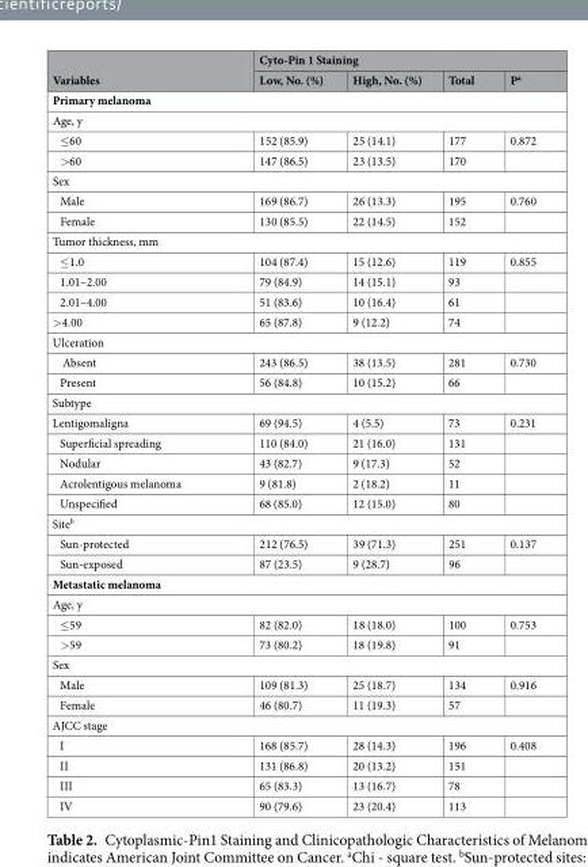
<table><thead><tr><td rowspan="2">Variables</td><td colspan="4">Cyto-Pin 1 Staining</td></tr><tr><td>Low, No. (%)</td><td>High, No. (%)</td><td>Total</td><td>P<sup>a</sup></td></tr></thead><tbody><tr><td colspan="5">Primary melanoma</td></tr><tr><td colspan="5">Age, y</td></tr><tr><td>≤60</td><td>152 (85.9)</td><td>25 (14.1)</td><td>177</td><td>0.872</td></tr><tr><td>&gt;60</td><td>147 (86.5)</td><td>23 (13.5)</td><td>170</td><td></td></tr><tr><td colspan="5">Sex</td></tr><tr><td>Male</td><td>169 (86.7)</td><td>26 (13.3)</td><td>195</td><td>0.760</td></tr><tr><td>Female</td><td>130 (85.5)</td><td>22 (14.5)</td><td>152</td><td></td></tr><tr><td colspan="5">Tumor thickness, mm</td></tr><tr><td>≤1.0</td><td>104 (87.4)</td><td>15 (12.6)</td><td>119</td><td>0.855</td></tr><tr><td>1.01–2.00</td><td>79 (84.9)</td><td>14 (15.1)</td><td>93</td><td></td></tr><tr><td>2.01–4.00</td><td>51 (83.6)</td><td>10 (16.4)</td><td>61</td><td></td></tr><tr><td>&gt;4.00</td><td>65 (87.8)</td><td>9 (12.2)</td><td>74</td><td></td></tr><tr><td colspan="5">Ulceration</td></tr><tr><td>Absent</td><td>243 (86.5)</td><td>38 (13.5)</td><td>281</td><td>0.730</td></tr><tr><td>Present</td><td>56 (84.8)</td><td>10 (15.2)</td><td>66</td><td></td></tr><tr><td colspan="5">Subtype</td></tr><tr><td>Lentigomaligna</td><td>69 (94.5)</td><td>4 (5.5)</td><td>73</td><td>0.231</td></tr><tr><td>Superficial spreading</td><td>110 (84.0)</td><td>21 (16.0)</td><td>131</td><td></td></tr><tr><td>Nodular</td><td>43 (82.7)</td><td>9 (17.3)</td><td>52</td><td></td></tr><tr><td>Acrolentigous melanoma</td><td>9 (81.8)</td><td>2 (18.2)</td><td>11</td><td></td></tr><tr><td>Unspecified</td><td>68 (85.0)</td><td>12 (15.0)</td><td>80</td><td></td></tr><tr><td colspan="5">Site<sup>b</sup></td></tr><tr><td>Sun-protected</td><td>212 (76.5)</td><td>39 (71.3)</td><td>251</td><td>0.137</td></tr><tr><td>Sun-exposed</td><td>87 (23.5)</td><td>9 (28.7)</td><td>96</td><td></td></tr><tr><td colspan="5">Metastatic melanoma</td></tr><tr><td colspan="5">Age, y</td></tr><tr><td>≤59</td><td>82 (82.0)</td><td>18 (18.0)</td><td>100</td><td>0.753</td></tr><tr><td>&gt;59</td><td>73 (80.2)</td><td>18 (19.8)</td><td>91</td><td></td></tr><tr><td colspan="5">Sex</td></tr><tr><td>Male</td><td>109 (81.3)</td><td>25 (18.7)</td><td>134</td><td>0.916</td></tr><tr><td>Female</td><td>46 (80.7)</td><td>11 (19.3)</td><td>57</td><td></td></tr><tr><td colspan="5">AJCC stage</td></tr><tr><td>I</td><td>168 (85.7)</td><td>28 (14.3)</td><td>196</td><td>0.408</td></tr><tr><td>II</td><td>131 (86.8)</td><td>20 (13.2)</td><td>151</td><td></td></tr><tr><td>III</td><td>65 (83.3)</td><td>13 (16.7)</td><td>78</td><td></td></tr><tr><td>IV</td><td>90 (79.6)</td><td>23 (20.4)</td><td>113</td><td></td></tr></tbody></table>